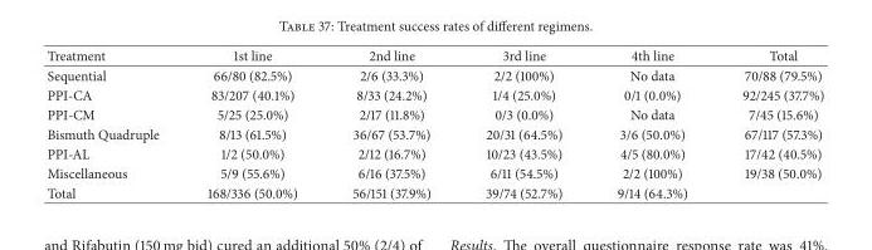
<table><thead><tr><td>Treatment</td><td>1st line</td><td>2nd line</td><td>3rd line</td><td>4th line</td><td>Total</td></tr></thead><tbody><tr><td>Sequential</td><td>66/80 (82.5%)</td><td>2/6 (33.3%)</td><td>2/2 (100%)</td><td>No data</td><td>70/88 (79.5%)</td></tr><tr><td>PPI-CA</td><td>83/207 (40.1%)</td><td>8/33 (24.2%)</td><td>1/4 (25.0%)</td><td>0/1 (0.0%)</td><td>92/245 (37.7%)</td></tr><tr><td>PPI-CM</td><td>5/25 (25.0%)</td><td>2/17 (11.8%)</td><td>0/3 (0.0%)</td><td>No data</td><td>7/45 (15.6%)</td></tr><tr><td>Bismuth Quadruple</td><td>8/13 (61.5%)</td><td>36/67 (53.7%)</td><td>20/31 (64.5%)</td><td>3/6 (50.0%)</td><td>67/117 (57.3%)</td></tr><tr><td>PPI-AL</td><td>1/2 (50.0%)</td><td>2/12 (16.7%)</td><td>10/23 (43.5%)</td><td>4/5 (80.0%)</td><td>17/42 (40.5%)</td></tr><tr><td>Miscellaneous</td><td>5/9 (55.6%)</td><td>6/16 (37.5%)</td><td>6/11 (54.5%)</td><td>2/2 (100%)</td><td>19/38 (50.0%)</td></tr><tr><td>Total</td><td>168/336 (50.0%)</td><td>56/151 (37.9%)</td><td>39/74 (52.7%)</td><td>9/14 (64.3%)</td><td></td></tr></tbody></table>